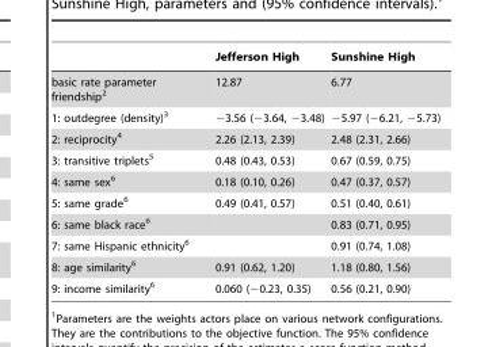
<table><thead><tr><td></td><td>Jefferson High</td><td>Sunshine High</td></tr></thead><tbody><tr><td>basic rate parameter friendship<sup>2</sup></td><td>12.87</td><td>6.77</td></tr><tr><td>1: outdegree (density)<sup>3</sup></td><td>−3.56 (−3.64, −3.48)</td><td>−5.97 (−6.21, −5.73)</td></tr><tr><td>2: reciprocity<sup>4</sup></td><td>2.26 (2.13, 2.39)</td><td>2.48 (2.31, 2.66)</td></tr><tr><td>3: transitive triplets<sup>5</sup></td><td>0.48 (0.43, 0.53)</td><td>0.67 (0.59, 0.75)</td></tr><tr><td>4: same sex<sup>6</sup></td><td>0.18 (0.10, 0.26)</td><td>0.47 (0.37, 0.57)</td></tr><tr><td>5: same grade<sup>6</sup></td><td>0.49 (0.41, 0.57)</td><td>0.51 (0.40, 0.61)</td></tr><tr><td>6: same black race<sup>6</sup></td><td></td><td>0.83 (0.71, 0.95)</td></tr><tr><td>7: same Hispanic ethnicity<sup>6</sup></td><td></td><td>0.91 (0.74, 1.08)</td></tr><tr><td>8: age similarity<sup>6</sup></td><td>0.91 (0.62, 1.20)</td><td>1.18 (0.80, 1.56)</td></tr><tr><td>9: income similarity<sup>6</sup></td><td>0.060 (−0.23, 0.35)</td><td>0.56 (0.21, 0.90)</td></tr></tbody></table>